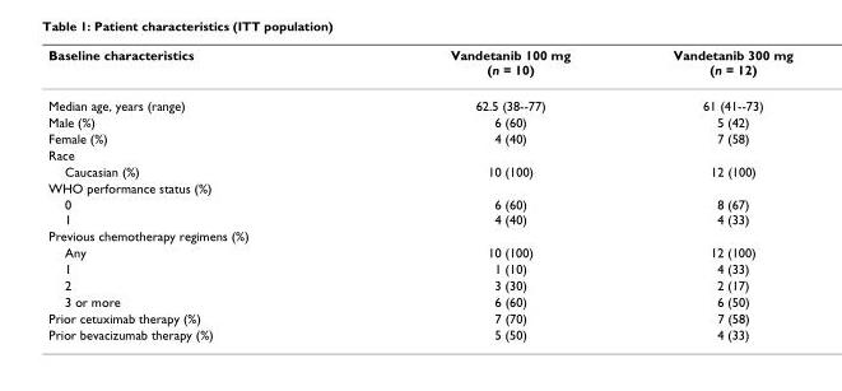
<table><thead><tr><td>Baseline characteristics</td><td>Vandetanib 100 mg (n = 10)</td><td>Vandetanib 300 mg (n = 12)</td></tr></thead><tbody><tr><td>Median age, years (range)</td><td>62.5 (38--77)</td><td>61 (41--73)</td></tr><tr><td>Male (%)</td><td>6 (60)</td><td>5 (42)</td></tr><tr><td>Female (%)</td><td>4 (40)</td><td>7 (58)</td></tr><tr><td colspan="3">Race</td></tr><tr><td>Caucasian (%)</td><td>10 (100)</td><td>12 (100)</td></tr><tr><td colspan="3">WHO performance status (%)</td></tr><tr><td>0 1</td><td>6 (60) 4 (40)</td><td>8 (67) 4 (33)</td></tr><tr><td colspan="3">Previous chemotherapy regimens (%)</td></tr><tr><td>Any</td><td>10 (100)</td><td>12 (100)</td></tr><tr><td>1</td><td>1 (10)</td><td>4 (33)</td></tr><tr><td>2</td><td>3 (30)</td><td>2 (17)</td></tr><tr><td>3 or more</td><td>6 (60)</td><td>6 (50)</td></tr><tr><td>Prior cetuximab therapy (%)</td><td>7 (70)</td><td>7 (58)</td></tr><tr><td>Prior bevacizumab therapy (%)</td><td>5 (50)</td><td>4 (33)</td></tr></tbody></table>